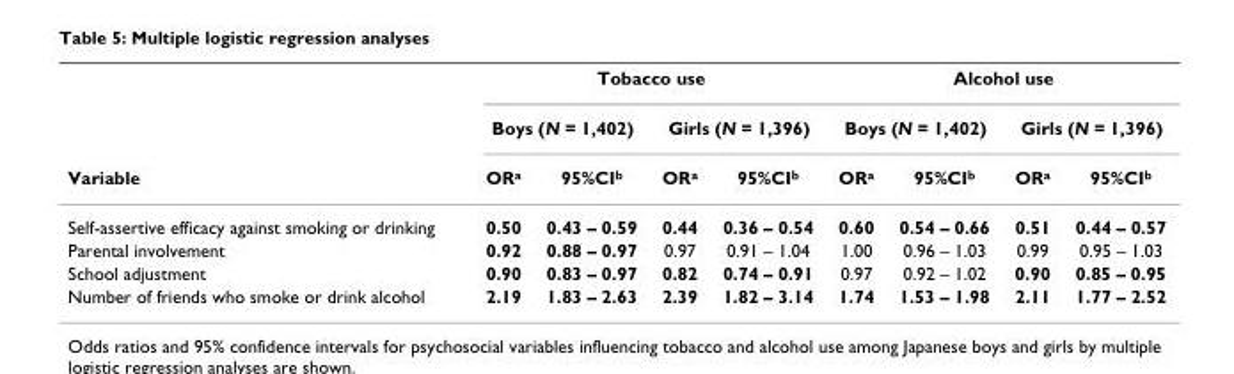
<table><thead><tr><td rowspan="3">Variable</td><td colspan="4">Tobacco use</td><td colspan="4">Alcohol use</td></tr><tr><td colspan="2">Boys (N = 1,402)</td><td colspan="2">Girls (N = 1,396)</td><td colspan="2">Boys (N = 1,402)</td><td colspan="2">Girls (N = 1,396)</td></tr><tr><td>OR<sup>a</sup></td><td>95%CI<sup>b</sup></td><td>OR<sup>a</sup></td><td>95%CI<sup>b</sup></td><td>OR<sup>a</sup></td><td>95%CI<sup>b</sup></td><td>OR<sup>a</sup></td><td>95%CI<sup>b</sup></td></tr></thead><tbody><tr><td>Self-assertive efficacy against smoking or drinking</td><td>0.50</td><td>0.43 – 0.59</td><td>0.44</td><td>0.36 – 0.54</td><td>0.60</td><td>0.54 – 0.66</td><td>0.51</td><td>0.44 – 0.57</td></tr><tr><td>Parental involvement</td><td>0.92</td><td>0.88 – 0.97</td><td>0.97</td><td>0.91 – 1.04</td><td>1.00</td><td>0.96 – 1.03</td><td>0.99</td><td>0.95 – 1.03</td></tr><tr><td>School adjustment</td><td>0.90</td><td>0.83 – 0.97</td><td>0.82</td><td>0.74 – 0.91</td><td>0.97</td><td>0.92 – 1.02</td><td>0.90</td><td>0.85 – 0.95</td></tr><tr><td>Number of friends who smoke or drink alcohol</td><td>2.19</td><td>1.83 – 2.63</td><td>2.39</td><td>1.82 – 3.14</td><td>1.74</td><td>1.53 – 1.98</td><td>2.11</td><td>1.77 – 2.52</td></tr></tbody></table>